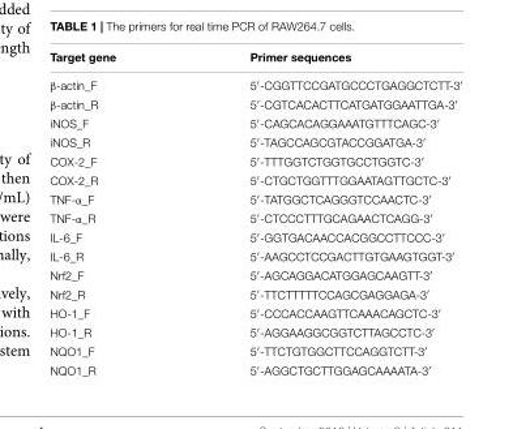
<table><thead><tr><td>Target gene</td><td>Primer sequences</td></tr></thead><tbody><tr><td>β-actin_F</td><td>5′-CGGTTCCGATGCCCTGAGGCTCTT-3′</td></tr><tr><td>β-actin_R</td><td>5′-CGTCACACTTCATGATGGAATTGA-3′</td></tr><tr><td>iNOS_F</td><td>5′-CAGCACAGGAAATGTTTCAGC-3′</td></tr><tr><td>iNOS_R</td><td>5′-TAGCCAGCGTACCGGATGA-3′</td></tr><tr><td>COX-2_F</td><td>5′-TTTGGTCTGGTGCCTGGTC-3′</td></tr><tr><td>COX-2_R</td><td>5′-CTGCTGGTTTGGAATAGTTGCTC-3′</td></tr><tr><td>TNF-α_F</td><td>5′-TATGGCTCAGGGTCCAACTC-3′</td></tr><tr><td>TNF-α_R</td><td>5′-CTCCCTTTGCAGAACTCAGG-3′</td></tr><tr><td>IL-6_F</td><td>5′-GGTGACAACCACGGCCTTCCC-3′</td></tr><tr><td>IL-6_R</td><td>5′-AAGCCTCCGACTTGTGAAGTGGT-3′</td></tr><tr><td>Nrf2_F</td><td>5′-AGCAGGACATGGAGCAAGTT-3′</td></tr><tr><td>Nrf2_R</td><td>5′-TTCTTTTTCCAGCGAGGAGA-3′</td></tr><tr><td>HO-1_F</td><td>5′-CCCACCAAGTTCAAACAGCTC-3′</td></tr><tr><td>HO-1_R</td><td>5′-AGGAAGGCGGTCTTAGCCTC-3′</td></tr><tr><td>NQO1_F</td><td>5′-TTCTGTGGCTTCCAGGTCTT-3′</td></tr><tr><td>NQO1_R</td><td>5′-AGGCTGCTTGGAGCAAAATA-3′</td></tr></tbody></table>